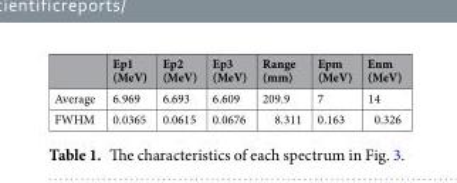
<table><thead><tr><td></td><td>Ep1 (MeV)</td><td>Ep2 (MeV)</td><td>Ep3 (MeV)</td><td>Range (mm)</td><td>Epm (MeV)</td><td>Enm (MeV)</td></tr></thead><tbody><tr><td>Average</td><td>6.969</td><td>6.693</td><td>6.609</td><td>209.9</td><td>7</td><td>14</td></tr><tr><td>FWHM</td><td>0.0365</td><td>0.0615</td><td>0.0676</td><td>8.311</td><td>0.163</td><td>0.326</td></tr></tbody></table>